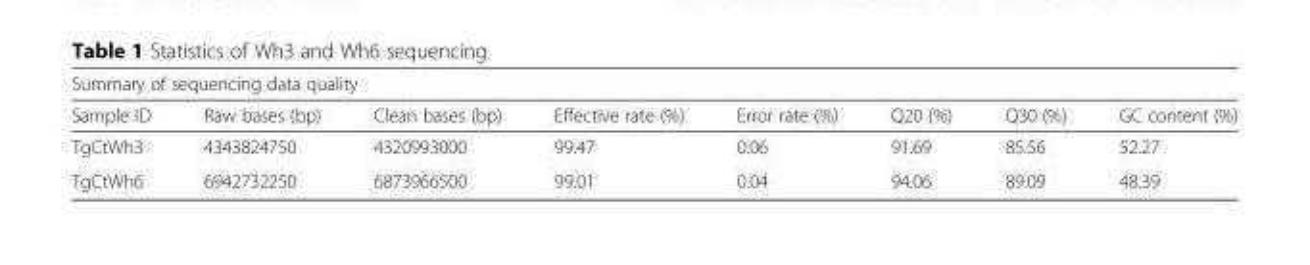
<table><thead><tr><td colspan="8">Summary of sequencing data quality</td></tr><tr><td>Sample ID</td><td>Raw bases (bp)</td><td>Clean bases (bp)</td><td>Effective rate (%)</td><td>Error rate (%)</td><td>Q20 (%)</td><td>Q30 (%)</td><td>GC content (%)</td></tr></thead><tbody><tr><td>TgCtWh3</td><td>4343824750</td><td>4320993000</td><td>99.47</td><td>0.06</td><td>91.69</td><td>85.56</td><td>52.27</td></tr><tr><td>TgCtWh6</td><td>6942732250</td><td>6873966500</td><td>99.01</td><td>0.04</td><td>94.06</td><td>89.09</td><td>48.39</td></tr></tbody></table>